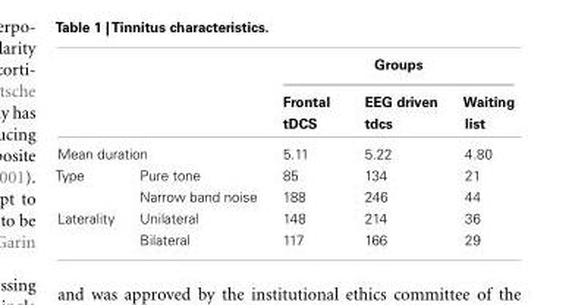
<table><thead><tr><td rowspan="2"></td><td rowspan="2"></td><td colspan="3">Groups</td></tr><tr><td>Frontal tDCS</td><td>EEG driven tdcs</td><td>Waiting list</td></tr></thead><tbody><tr><td colspan="2">Mean duration</td><td>5.11</td><td>5.22</td><td>4.80</td></tr><tr><td rowspan="2">Type</td><td>Pure tone</td><td>85</td><td>134</td><td>21</td></tr><tr><td>Narrow band noise</td><td>188</td><td>246</td><td>44</td></tr><tr><td rowspan="2">Laterality</td><td>Unilateral</td><td>148</td><td>214</td><td>36</td></tr><tr><td>Bilateral</td><td>117</td><td>166</td><td>29</td></tr></tbody></table>